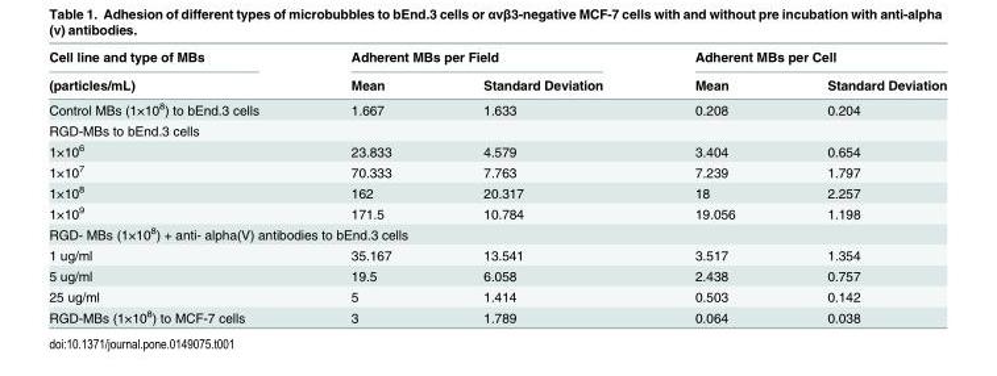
<table><thead><tr><td rowspan="2">Cell line and type of MBs (particles/mL)</td><td colspan="2">Adherent MBs per Field</td><td colspan="2">Adherent MBs per Cell</td></tr><tr><td>Mean</td><td>Standard Deviation</td><td>Mean</td><td>Standard Deviation</td></tr></thead><tbody><tr><td>Control MBs (1×10<sup>8</sup>) to bEnd.3 cells</td><td>1.667</td><td>1.633</td><td>0.208</td><td>0.204</td></tr><tr><td colspan="5">RGD-MBs to bEnd.3 cells</td></tr><tr><td>1×10<sup>6</sup></td><td>23.833</td><td>4.579</td><td>3.404</td><td>0.654</td></tr><tr><td>1×10<sup>7</sup></td><td>70.333</td><td>7.763</td><td>7.239</td><td>1.797</td></tr><tr><td>1×10<sup>8</sup></td><td>162</td><td>20.317</td><td>18</td><td>2.257</td></tr><tr><td>1×10<sup>9</sup></td><td>171.5</td><td>10.784</td><td>19.056</td><td>1.198</td></tr><tr><td colspan="5">RGD- MBs (1×10<sup>8</sup>) + anti- alpha(V) antibodies to bEnd.3 cells</td></tr><tr><td>1 ug/ml</td><td>35.167</td><td>13.541</td><td>3.517</td><td>1.354</td></tr><tr><td>5 ug/ml</td><td>19.5</td><td>6.058</td><td>2.438</td><td>0.757</td></tr><tr><td>25 ug/ml</td><td>5</td><td>1.414</td><td>0.503</td><td>0.142</td></tr><tr><td>RGD-MBs (1×10<sup>8</sup>) to MCF-7 cells</td><td>3</td><td>1.789</td><td>0.064</td><td>0.038</td></tr></tbody></table>